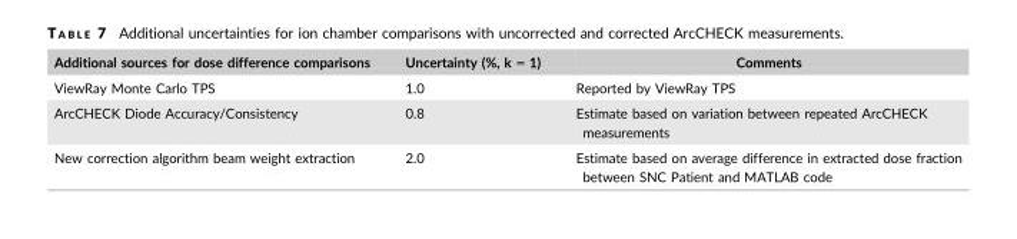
<table><thead><tr><td>Additional sources for dose difference comparisons</td><td>Uncertainty (%, k = 1)</td><td>Comments</td></tr></thead><tbody><tr><td>ViewRay Monte Carlo TPS</td><td>1.0</td><td>Reported by ViewRay TPS</td></tr><tr><td>ArcCHECK Diode Accuracy/Consistency</td><td>0.8</td><td>Estimate based on variation between repeated ArcCHECK measurements</td></tr><tr><td>New correction algorithm beam weight extraction</td><td>2.0</td><td>Estimate based on average difference in extracted dose fraction between SNC Patient and MATLAB code</td></tr></tbody></table>